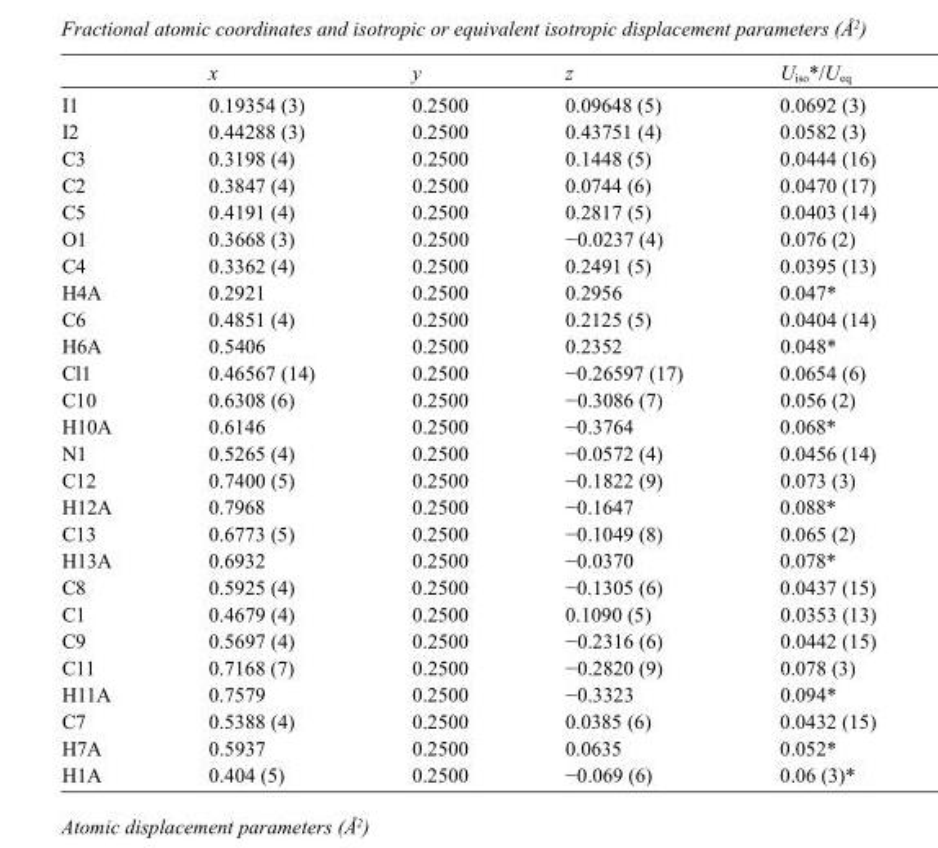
<table><thead><tr><td></td><td>x</td><td>y</td><td>z</td><td>U<sub>iso</sub>*/U<sub>eq</sub></td></tr></thead><tbody><tr><td>I1</td><td>0.19354 (3)</td><td>0.2500</td><td>0.09648 (5)</td><td>0.0692 (3)</td></tr><tr><td>I2</td><td>0.44288 (3)</td><td>0.2500</td><td>0.43751 (4)</td><td>0.0582 (3)</td></tr><tr><td>C3</td><td>0.3198 (4)</td><td>0.2500</td><td>0.1448 (5)</td><td>0.0444 (16)</td></tr><tr><td>C2</td><td>0.3847 (4)</td><td>0.2500</td><td>0.0744 (6)</td><td>0.0470 (17)</td></tr><tr><td>C5</td><td>0.4191 (4)</td><td>0.2500</td><td>0.2817 (5)</td><td>0.0403 (14)</td></tr><tr><td>O1</td><td>0.3668 (3)</td><td>0.2500</td><td>−0.0237 (4)</td><td>0.076 (2)</td></tr><tr><td>C4</td><td>0.3362 (4)</td><td>0.2500</td><td>0.2491 (5)</td><td>0.0395 (13)</td></tr><tr><td>H4A</td><td>0.2921</td><td>0.2500</td><td>0.2956</td><td>0.047*</td></tr><tr><td>C6</td><td>0.4851 (4)</td><td>0.2500</td><td>0.2125 (5)</td><td>0.0404 (14)</td></tr><tr><td>H6A</td><td>0.5406</td><td>0.2500</td><td>0.2352</td><td>0.048*</td></tr><tr><td>Cl1</td><td>0.46567 (14)</td><td>0.2500</td><td>−0.26597 (17)</td><td>0.0654 (6)</td></tr><tr><td>C10</td><td>0.6308 (6)</td><td>0.2500</td><td>−0.3086 (7)</td><td>0.056 (2)</td></tr><tr><td>H10A</td><td>0.6146</td><td>0.2500</td><td>−0.3764</td><td>0.068*</td></tr><tr><td>N1</td><td>0.5265 (4)</td><td>0.2500</td><td>−0.0572 (4)</td><td>0.0456 (14)</td></tr><tr><td>C12</td><td>0.7400 (5)</td><td>0.2500</td><td>−0.1822 (9)</td><td>0.073 (3)</td></tr><tr><td>H12A</td><td>0.7968</td><td>0.2500</td><td>−0.1647</td><td>0.088*</td></tr><tr><td>C13</td><td>0.6773 (5)</td><td>0.2500</td><td>−0.1049 (8)</td><td>0.065 (2)</td></tr><tr><td>H13A</td><td>0.6932</td><td>0.2500</td><td>−0.0370</td><td>0.078*</td></tr><tr><td>C8</td><td>0.5925 (4)</td><td>0.2500</td><td>−0.1305 (6)</td><td>0.0437 (15)</td></tr><tr><td>C1</td><td>0.4679 (4)</td><td>0.2500</td><td>0.1090 (5)</td><td>0.0353 (13)</td></tr><tr><td>C9</td><td>0.5697 (4)</td><td>0.2500</td><td>−0.2316 (6)</td><td>0.0442 (15)</td></tr><tr><td>C11</td><td>0.7168 (7)</td><td>0.2500</td><td>−0.2820 (9)</td><td>0.078 (3)</td></tr><tr><td>H11A</td><td>0.7579</td><td>0.2500</td><td>−0.3323</td><td>0.094*</td></tr><tr><td>C7</td><td>0.5388 (4)</td><td>0.2500</td><td>0.0385 (6)</td><td>0.0432 (15)</td></tr><tr><td>H7A</td><td>0.5937</td><td>0.2500</td><td>0.0635</td><td>0.052*</td></tr><tr><td>H1A</td><td>0.404 (5)</td><td>0.2500</td><td>−0.069 (6)</td><td>0.06 (3)*</td></tr></tbody></table>